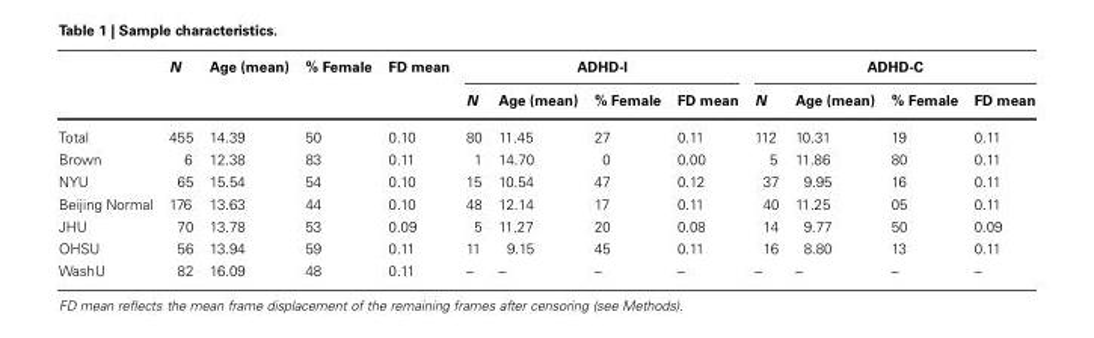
<table><thead><tr><td rowspan="2"></td><td rowspan="2">N</td><td rowspan="2">Age (mean)</td><td rowspan="2">% Female</td><td rowspan="2">FD mean</td><td colspan="4">ADHD-I</td><td colspan="4">ADHD-C</td></tr><tr><td>N</td><td>Age (mean)</td><td>% Female</td><td>FD mean</td><td>N</td><td>Age (mean)</td><td>% Female</td><td>FD mean</td></tr></thead><tbody><tr><td>Total</td><td>455</td><td>14.39</td><td>50</td><td>0.10</td><td>80</td><td>11.45</td><td>27</td><td>0.11</td><td>112</td><td>10.31</td><td>19</td><td>0.11</td></tr><tr><td>Brown</td><td>6</td><td>12.38</td><td>83</td><td>0.11</td><td>1</td><td>14.70</td><td>0</td><td>0.00</td><td>5</td><td>11.86</td><td>80</td><td>0.11</td></tr><tr><td>NYU</td><td>65</td><td>15.54</td><td>54</td><td>0.10</td><td>15</td><td>10.54</td><td>47</td><td>0.12</td><td>37</td><td>9.95</td><td>16</td><td>0.11</td></tr><tr><td>Beijing Normal</td><td>176</td><td>13.63</td><td>44</td><td>0.10</td><td>48</td><td>12.14</td><td>17</td><td>0.11</td><td>40</td><td>11.25</td><td>05</td><td>0.11</td></tr><tr><td>JHU</td><td>70</td><td>13.78</td><td>53</td><td>0.09</td><td>5</td><td>11.27</td><td>20</td><td>0.08</td><td>14</td><td>9.77</td><td>50</td><td>0.09</td></tr><tr><td>OHSU</td><td>56</td><td>13.94</td><td>59</td><td>0.11</td><td>11</td><td>9.15</td><td>45</td><td>0.11</td><td>16</td><td>8.80</td><td>13</td><td>0.11</td></tr><tr><td>WashU</td><td>82</td><td>16.09</td><td>48</td><td>0.11</td><td>–</td><td>–</td><td>–</td><td>–</td><td>–</td><td>–</td><td>–</td><td>–</td></tr></tbody></table>